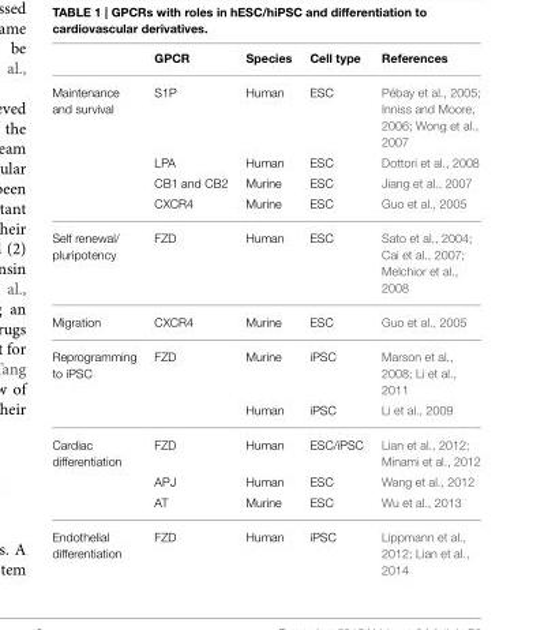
<table><thead><tr><td></td><td>GPCR</td><td>Species</td><td>Cell type</td><td>References</td></tr></thead><tbody><tr><td rowspan="4">Maintenance and survival</td><td>S1P</td><td>Human</td><td>ESC</td><td>Pébay et al., 2005; Inniss and Moore, 2006; Wong et al., 2007</td></tr><tr><td>LPA</td><td>Human</td><td>ESC</td><td>Dottori et al., 2008</td></tr><tr><td>CB1 and CB2</td><td>Murine</td><td>ESC</td><td>Jiang et al., 2007</td></tr><tr><td>CXCR4</td><td>Murine</td><td>ESC</td><td>Guo et al., 2005</td></tr><tr><td>Self renewal/ pluripotency</td><td>FZD</td><td>Human</td><td>ESC</td><td>Sato et al., 2004; Cai et al., 2007; Melchior et al., 2008</td></tr><tr><td>Migration</td><td>CXCR4</td><td>Murine</td><td>ESC</td><td>Guo et al., 2005</td></tr><tr><td rowspan="2">Reprogramming to iPSC</td><td>FZD</td><td>Murine</td><td>iPSC</td><td>Marson et al., 2008; Li et al., 2011</td></tr><tr><td></td><td>Human</td><td>iPSC</td><td>Li et al., 2009</td></tr><tr><td rowspan="3">Cardiac differentiation</td><td>FZD</td><td>Human</td><td>ESC/iPSC</td><td>Lian et al., 2012; Minami et al., 2012</td></tr><tr><td>APJ</td><td>Human</td><td>ESC</td><td>Wang et al., 2012</td></tr><tr><td>AT</td><td>Murine</td><td>ESC</td><td>Wu et al., 2013</td></tr><tr><td>Endothelial differentiation</td><td>FZD</td><td>Human</td><td>iPSC</td><td>Lippmann et al., 2012; Lian et al., 2014</td></tr></tbody></table>